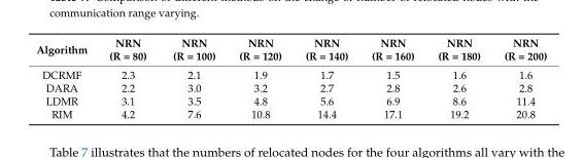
<table><thead><tr><td>Algorithm</td><td>NRN (R = 80)</td><td>NRN (R = 100)</td><td>NRN (R = 120)</td><td>NRN (R = 140)</td><td>NRN (R = 160)</td><td>NRN (R = 180)</td><td>NRN (R = 200)</td></tr></thead><tbody><tr><td>DCRMF</td><td>2.3</td><td>2.1</td><td>1.9</td><td>1.7</td><td>1.5</td><td>1.6</td><td>1.6</td></tr><tr><td>DARA</td><td>2.2</td><td>3.0</td><td>3.2</td><td>2.7</td><td>2.8</td><td>2.6</td><td>2.8</td></tr><tr><td>LDMR</td><td>3.1</td><td>3.5</td><td>4.8</td><td>5.6</td><td>6.9</td><td>8.6</td><td>11.4</td></tr><tr><td>RIM</td><td>4.2</td><td>7.6</td><td>10.8</td><td>14.4</td><td>17.1</td><td>19.2</td><td>20.8</td></tr></tbody></table>